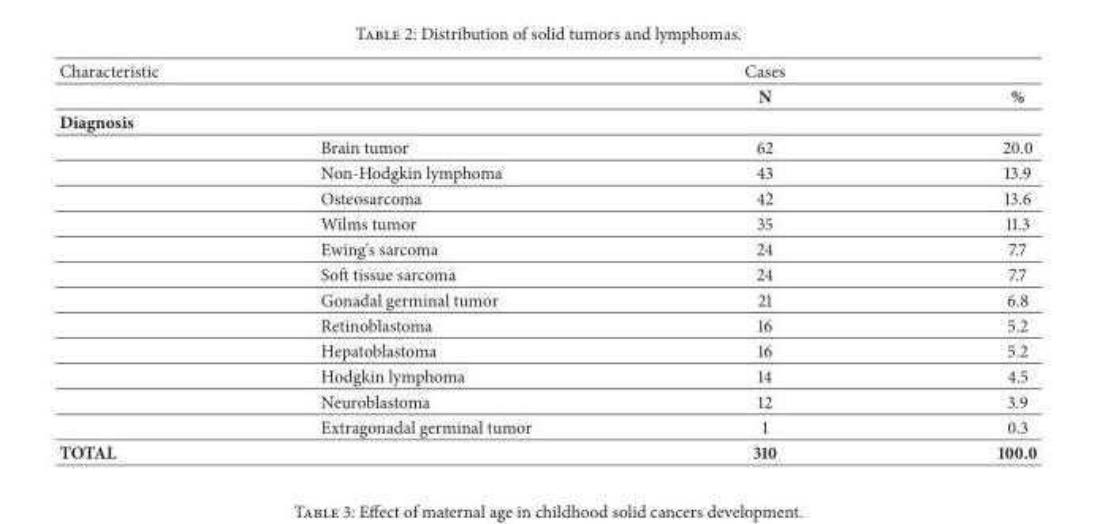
<table><thead><tr><td rowspan="3" colspan="2">Characteristic Diagnosis</td><td rowspan="4">Cases N 62</td><td rowspan="4">% 20.0</td></tr><tr></tr><tr></tr><tr><td></td><td>Brain tumor</td></tr></thead><tbody><tr><td></td><td>Non-Hodgkin lymphoma</td><td>43</td><td>13.9</td></tr><tr><td></td><td>Osteosarcoma</td><td>42</td><td>13.6</td></tr><tr><td></td><td>Wilms tumor</td><td>35</td><td>11.3</td></tr><tr><td></td><td>Ewing&#x27;s sarcoma</td><td>24</td><td>7.7</td></tr><tr><td></td><td>Soft tissue sarcoma</td><td>24</td><td>7.7</td></tr><tr><td></td><td>Gonadal germinal tumor</td><td>21</td><td>6.8</td></tr><tr><td></td><td>Retinoblastoma</td><td>16</td><td>5.2</td></tr><tr><td></td><td>Hepatoblastoma</td><td>16</td><td>5.2</td></tr><tr><td></td><td>Hodgkin lymphoma</td><td>14</td><td>4.5</td></tr><tr><td></td><td>Neuroblastoma</td><td>12</td><td>3.9</td></tr><tr><td></td><td>Extragonadal germinal tumor</td><td>1</td><td>0.3</td></tr><tr><td>TOTAL</td><td></td><td>310</td><td>100.0</td></tr></tbody></table>